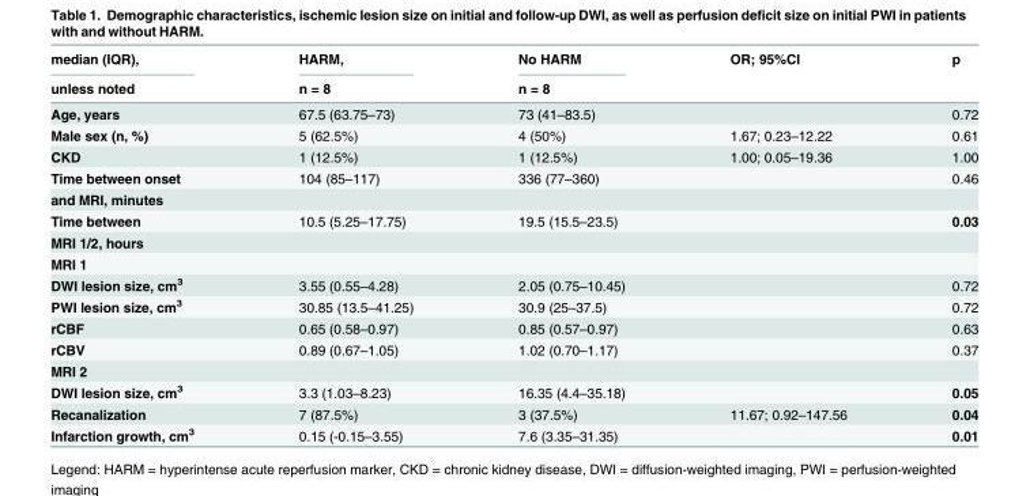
<table><thead><tr><td rowspan="2">median (IQR), unless noted</td><td rowspan="2">HARM, n = 8</td><td rowspan="2">No HARM n = 8</td><td rowspan="2">OR; 95%CI</td><td rowspan="2">p</td></tr><tr></tr></thead><tbody><tr><td>Age, years</td><td>67.5 (63.75–73)</td><td>73 (41–83.5)</td><td></td><td>0.72</td></tr><tr><td>Male sex (n, %)</td><td>5 (62.5%)</td><td>4 (50%)</td><td>1.67; 0.23–12.22</td><td>0.61</td></tr><tr><td>CKD</td><td>1 (12.5%)</td><td>1 (12.5%)</td><td>1.00; 0.05–19.36</td><td>1.00</td></tr><tr><td>Time between onset</td><td>104 (85–117)</td><td>336 (77–360)</td><td></td><td>0.46</td></tr><tr><td colspan="5">and MRI, minutes</td></tr><tr><td>Time between</td><td>10.5 (5.25–17.75)</td><td>19.5 (15.5–23.5)</td><td></td><td>0.03</td></tr><tr><td colspan="5">MRI 1/2, hours</td></tr><tr><td colspan="5">MRI 1</td></tr><tr><td>DWI lesion size, cm<sup>3</sup></td><td>3.55 (0.55–4.28)</td><td>2.05 (0.75–10.45)</td><td></td><td>0.72</td></tr><tr><td>PWI lesion size, cm<sup>3</sup></td><td>30.85 (13.5–41.25)</td><td>30.9 (25–37.5)</td><td></td><td>0.72</td></tr><tr><td>rCBF</td><td>0.65 (0.58–0.97)</td><td>0.85 (0.57–0.97)</td><td></td><td>0.63</td></tr><tr><td>rCBV</td><td>0.89 (0.67–1.05)</td><td>1.02 (0.70–1.17)</td><td></td><td>0.37</td></tr><tr><td colspan="5">MRI 2</td></tr><tr><td>DWI lesion size, cm<sup>3</sup></td><td>3.3 (1.03–8.23)</td><td>16.35 (4.4–35.18)</td><td></td><td>0.05</td></tr><tr><td>Recanalization</td><td>7 (87.5%)</td><td>3 (37.5%)</td><td>11.67; 0.92–147.56</td><td>0.04</td></tr><tr><td>Infarction growth, cm<sup>3</sup></td><td>0.15 (-0.15–3.55)</td><td>7.6 (3.35–31.35)</td><td></td><td>0.01</td></tr></tbody></table>